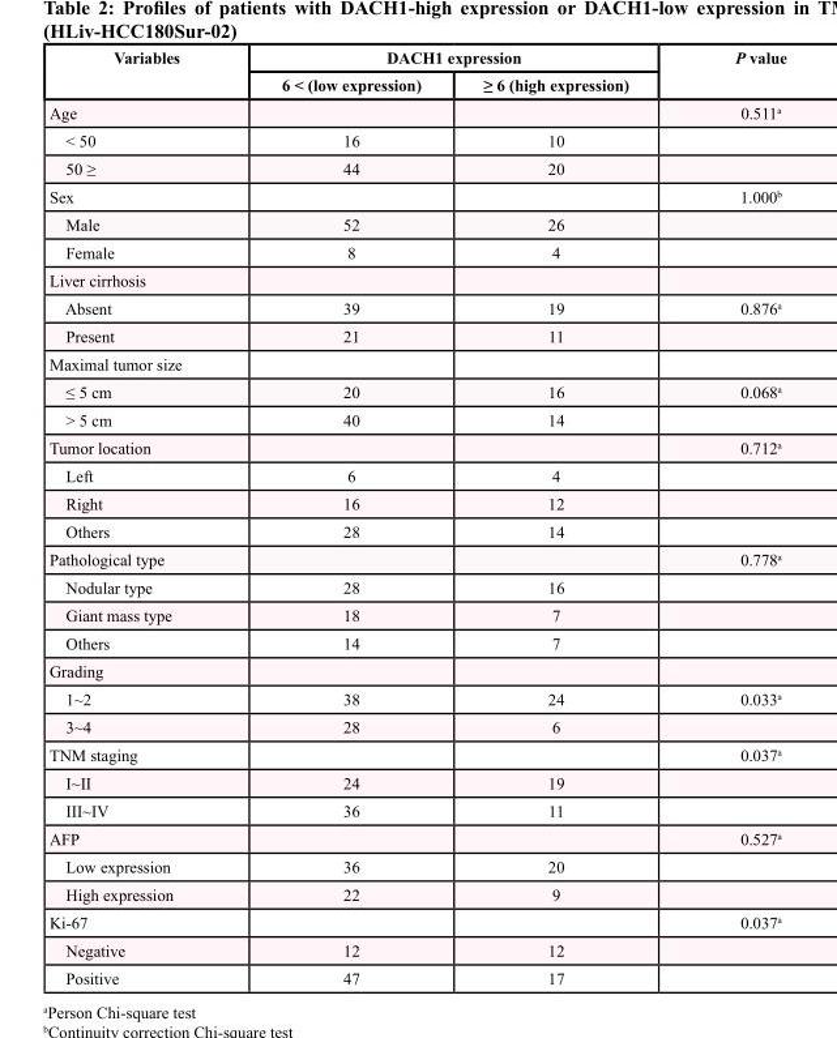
<table><thead><tr><td rowspan="2">Variables</td><td colspan="2">DACH1 expression</td><td rowspan="2">P value</td></tr><tr><td>6 &lt; (low expression)</td><td>≥ 6 (high expression)</td></tr></thead><tbody><tr><td>Age</td><td></td><td></td><td>0.511<sup>a</sup></td></tr><tr><td>&lt; 50</td><td>16</td><td>10</td><td></td></tr><tr><td>50 ≥</td><td>44</td><td>20</td><td></td></tr><tr><td>Sex</td><td></td><td></td><td>1.000<sup>b</sup></td></tr><tr><td>Male</td><td>52</td><td>26</td><td></td></tr><tr><td>Female</td><td>8</td><td>4</td><td></td></tr><tr><td colspan="4">Liver cirrhosis</td></tr><tr><td>Absent</td><td>39</td><td>19</td><td>0.876<sup>a</sup></td></tr><tr><td>Present</td><td>21</td><td>11</td><td></td></tr><tr><td colspan="4">Maximal tumor size</td></tr><tr><td>≤ 5 cm</td><td>20</td><td>16</td><td>0.068<sup>a</sup></td></tr><tr><td>&gt; 5 cm</td><td>40</td><td>14</td><td></td></tr><tr><td>Tumor location</td><td></td><td></td><td>0.712<sup>a</sup></td></tr><tr><td>Left</td><td>6</td><td>4</td><td></td></tr><tr><td>Right</td><td>16</td><td>12</td><td></td></tr><tr><td>Others</td><td>28</td><td>14</td><td></td></tr><tr><td>Pathological type</td><td></td><td></td><td>0.778<sup>a</sup></td></tr><tr><td>Nodular type</td><td>28</td><td>16</td><td></td></tr><tr><td>Giant mass type</td><td>18</td><td>7</td><td></td></tr><tr><td>Others</td><td>14</td><td>7</td><td></td></tr><tr><td colspan="4">Grading</td></tr><tr><td>1~2</td><td>38</td><td>24</td><td>0.033<sup>a</sup></td></tr><tr><td>3~4</td><td>28</td><td>6</td><td></td></tr><tr><td>TNM staging</td><td></td><td></td><td>0.037<sup>a</sup></td></tr><tr><td>I~II</td><td>24</td><td>19</td><td></td></tr><tr><td>III~IV</td><td>36</td><td>11</td><td></td></tr><tr><td>AFP</td><td></td><td></td><td>0.527<sup>a</sup></td></tr><tr><td>Low expression</td><td>36</td><td>20</td><td></td></tr><tr><td>High expression</td><td>22</td><td>9</td><td></td></tr><tr><td>Ki-67</td><td></td><td></td><td>0.037<sup>a</sup></td></tr><tr><td>Negative</td><td>12</td><td>12</td><td></td></tr><tr><td>Positive</td><td>47</td><td>17</td><td></td></tr></tbody></table>